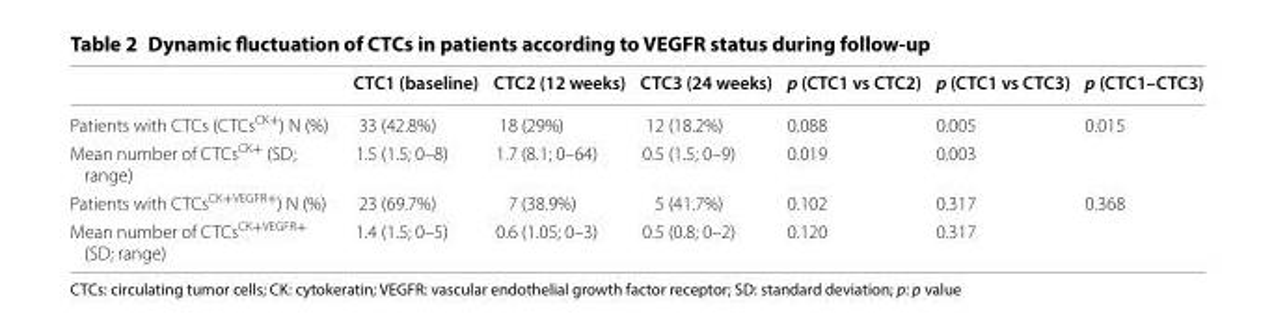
<table><thead><tr><td></td><td>CTC1 (baseline)</td><td>CTC2 (12 weeks)</td><td>CTC3 (24 weeks)</td><td>p (CTC1 vs CTC2)</td><td>p (CTC1 vs CTC3)</td><td>p (CTC1–CTC3)</td></tr></thead><tbody><tr><td>Patients with CTCs (CTCs<sup>CK+</sup>) N (%)</td><td>33 (42.8%)</td><td>18 (29%)</td><td>12 (18.2%)</td><td>0.088</td><td>0.005</td><td>0.015</td></tr><tr><td>Mean number of CTCs<sup>CK+</sup> (SD; range)</td><td>1.5 (1.5; 0–8)</td><td>1.7 (8.1; 0–64)</td><td>0.5 (1.5; 0–9)</td><td>0.019</td><td>0.003</td><td></td></tr><tr><td>Patients with CTCs<sup>CK+VEGFR+</sup>) N (%)</td><td>23 (69.7%)</td><td>7 (38.9%)</td><td>5 (41.7%)</td><td>0.102</td><td>0.317</td><td>0.368</td></tr><tr><td>Mean number of CTCs<sup>CK+VEGFR+</sup> (SD; range)</td><td>1.4 (1.5; 0–5)</td><td>0.6 (1.05; 0–3)</td><td>0.5 (0.8; 0–2)</td><td>0.120</td><td>0.317</td><td></td></tr></tbody></table>